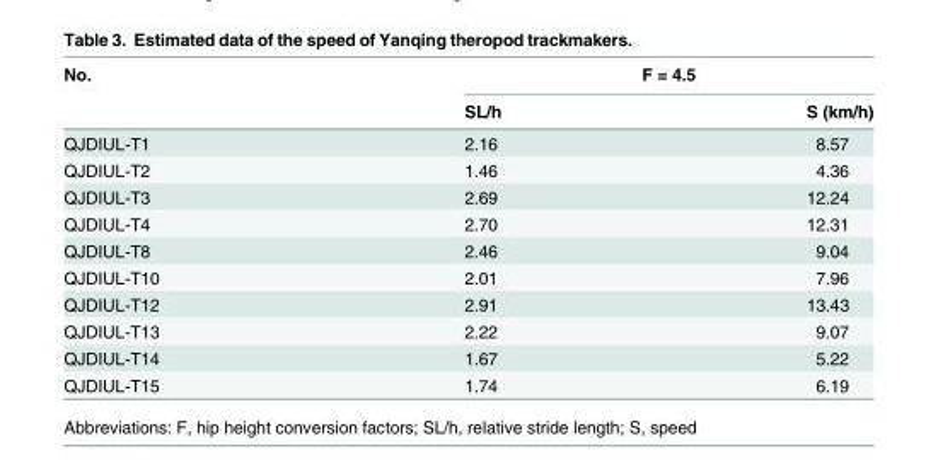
<table><thead><tr><td rowspan="2">No.</td><td colspan="2">F = 4.5</td></tr><tr><td>SL/h</td><td>S (km/h)</td></tr></thead><tbody><tr><td>QJDIUL-T1</td><td>2.16</td><td>8.57</td></tr><tr><td>QJDIUL-T2</td><td>1.46</td><td>4.36</td></tr><tr><td>QJDIUL-T3</td><td>2.69</td><td>12.24</td></tr><tr><td>QJDIUL-T4</td><td>2.70</td><td>12.31</td></tr><tr><td>QJDIUL-T8</td><td>2.46</td><td>9.04</td></tr><tr><td>QJDIUL-T10</td><td>2.01</td><td>7.96</td></tr><tr><td>QJDIUL-T12</td><td>2.91</td><td>13.43</td></tr><tr><td>QJDIUL-T13</td><td>2.22</td><td>9.07</td></tr><tr><td>QJDIUL-T14</td><td>1.67</td><td>5.22</td></tr><tr><td>QJDIUL-T15</td><td>1.74</td><td>6.19</td></tr></tbody></table>